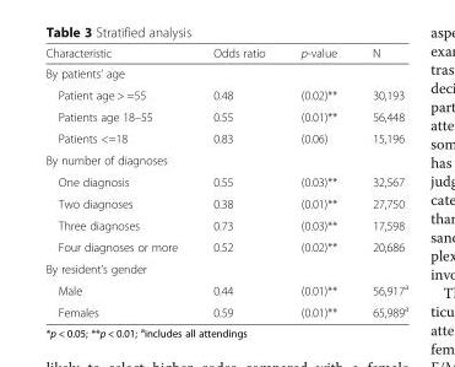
<table><thead><tr><td>Characteristic</td><td>Odds ratio</td><td>p-value</td><td>N</td></tr></thead><tbody><tr><td colspan="4">By patients’ age</td></tr><tr><td>Patient age &gt; =55</td><td>0.48</td><td>(0.02)**</td><td>30,193</td></tr><tr><td>Patients age 18–55</td><td>0.55</td><td>(0.01)**</td><td>56,448</td></tr><tr><td>Patients &lt;=18</td><td>0.83</td><td>(0.06)</td><td>15,196</td></tr><tr><td colspan="4">By number of diagnoses</td></tr><tr><td>One diagnosis</td><td>0.55</td><td>(0.03)**</td><td>32,567</td></tr><tr><td>Two diagnoses</td><td>0.38</td><td>(0.01)**</td><td>27,750</td></tr><tr><td>Three diagnoses</td><td>0.73</td><td>(0.03)**</td><td>17,598</td></tr><tr><td>Four diagnoses or more</td><td>0.52</td><td>(0.02)**</td><td>20,686</td></tr><tr><td colspan="4">By resident’s gender</td></tr><tr><td>Male</td><td>0.44</td><td>(0.01)**</td><td>56,917<sup>a</sup></td></tr><tr><td>Females</td><td>0.59</td><td>(0.01)**</td><td>65,989<sup>a</sup></td></tr></tbody></table>